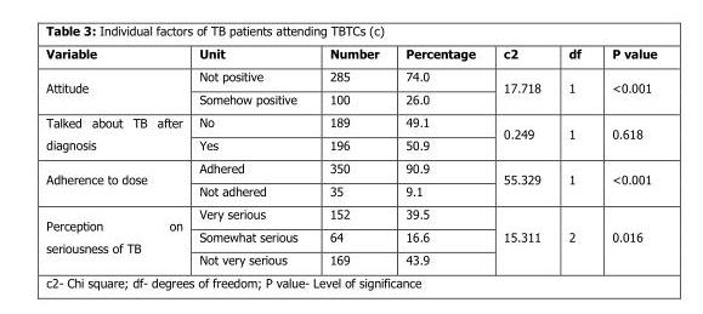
<table><thead><tr><td>Variable</td><td>Unit</td><td>Number</td><td>Percentage</td><td>c2</td><td>df</td><td>P value</td></tr></thead><tbody><tr><td rowspan="2">Attitude</td><td>Not positive</td><td>285</td><td>74.0</td><td rowspan="2">17.718</td><td rowspan="2">1</td><td rowspan="2">&lt;0.001</td></tr><tr><td>Somehow positive</td><td>100</td><td>26.0</td></tr><tr><td rowspan="2">Talked about TB after diagnosis</td><td>No</td><td>189</td><td>49.1</td><td rowspan="2">0.249</td><td rowspan="2">1</td><td rowspan="2">0.618</td></tr><tr><td>Yes</td><td>196</td><td>50.9</td></tr><tr><td rowspan="2">Adherence to dose</td><td>Adhered</td><td>350</td><td>90.9</td><td rowspan="2">55.329</td><td rowspan="2">1</td><td rowspan="2">&lt;0.001</td></tr><tr><td>Not adhered</td><td>35</td><td>9.1</td></tr><tr><td rowspan="3">Perception on seriousness of TB</td><td>Very serious</td><td>152</td><td>39.5</td><td rowspan="3">15.311</td><td rowspan="3">2</td><td rowspan="3">0.016</td></tr><tr><td>Somewhat serious</td><td>64</td><td>16.6</td></tr><tr><td>Not very serious</td><td>169</td><td>43.9</td></tr></tbody></table>